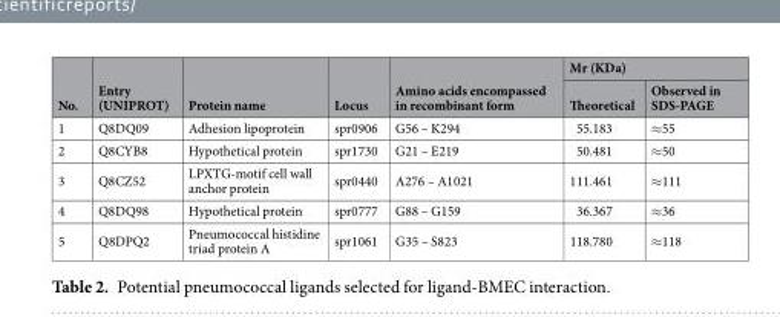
<table><thead><tr><td rowspan="2">No.</td><td rowspan="2">Entry (UNIPROT)</td><td rowspan="2">Protein name</td><td rowspan="2">Locus</td><td rowspan="2">Amino acids encompassed in recombinant form</td><td colspan="2">Mr (KDa)</td></tr><tr><td>Theoretical</td><td>Observed in SDS-PAGE</td></tr></thead><tbody><tr><td>1</td><td>Q8DQ09</td><td>Adhesion lipoprotein</td><td>spr0906</td><td>G56 – K294</td><td>55.183</td><td>≈55</td></tr><tr><td>2</td><td>Q8CYB8</td><td>Hypothetical protein</td><td>spr1730</td><td>G21 – E219</td><td>50.481</td><td>≈50</td></tr><tr><td>3</td><td>Q8CZ52</td><td>LPXTG-motif cell wall anchor protein</td><td>spr0440</td><td>A276 – A1021</td><td>111.461</td><td>≈111</td></tr><tr><td>4</td><td>Q8DQ98</td><td>Hypothetical protein</td><td>spr0777</td><td>G88 – G159</td><td>36.367</td><td>≈36</td></tr><tr><td>5</td><td>Q8DPQ2</td><td>Pneumococcal histidine triad protein A</td><td>spr1061</td><td>G35 – S823</td><td>118.780</td><td>≈118</td></tr></tbody></table>